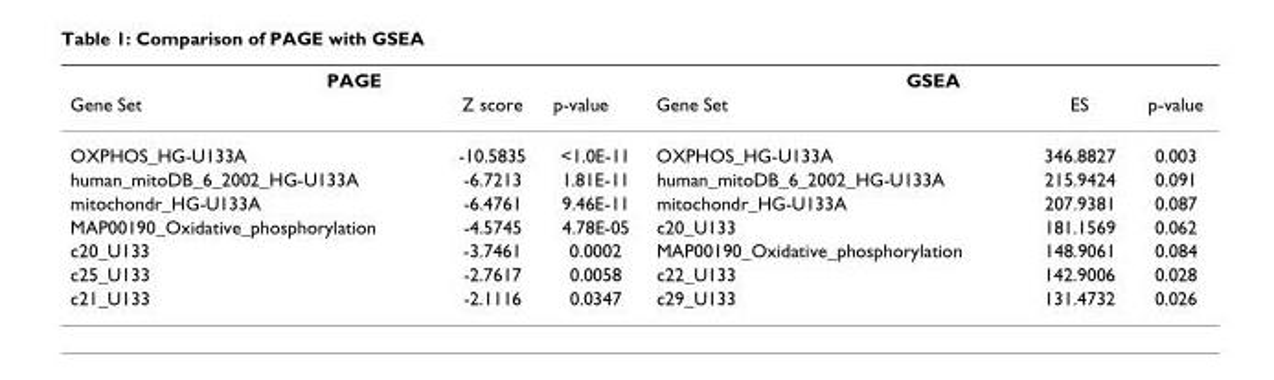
<table><thead><tr><td colspan="3">PAGE</td><td colspan="3">GSEA</td></tr><tr><td>Gene Set</td><td>Z score</td><td>p-value</td><td>Gene Set</td><td>ES</td><td>p-value</td></tr></thead><tbody><tr><td>OXPHOS_HG-U133A</td><td>-10.5835</td><td>&lt;1.0E-11</td><td>OXPHOS_HG-U133A</td><td>346.8827</td><td>0.003</td></tr><tr><td>human_mitoDB_6_2002_HG-U133A</td><td>-6.7213</td><td>1.81E-11</td><td>human_mitoDB_6_2002_HG-U133A</td><td>215.9424</td><td>0.091</td></tr><tr><td>mitochondr_HG-U133A</td><td>-6.4761</td><td>9.46E-11</td><td>mitochondr_HG-U133A</td><td>207.9381</td><td>0.087</td></tr><tr><td>MAP00190_Oxidative_phosphorylation</td><td>-4.5745</td><td>4.78E-05</td><td>c20_U133</td><td>181.1569</td><td>0.062</td></tr><tr><td>c20_U133</td><td>-3.7461</td><td>0.0002</td><td>MAP00190_Oxidative_phosphorylation</td><td>148.9061</td><td>0.084</td></tr><tr><td>c25_U133</td><td>-2.7617</td><td>0.0058</td><td>c22_U133</td><td>142.9006</td><td>0.028</td></tr><tr><td>c21_U133</td><td>-2.1116</td><td>0.0347</td><td>c29_U133</td><td>131.4732</td><td>0.026</td></tr></tbody></table>